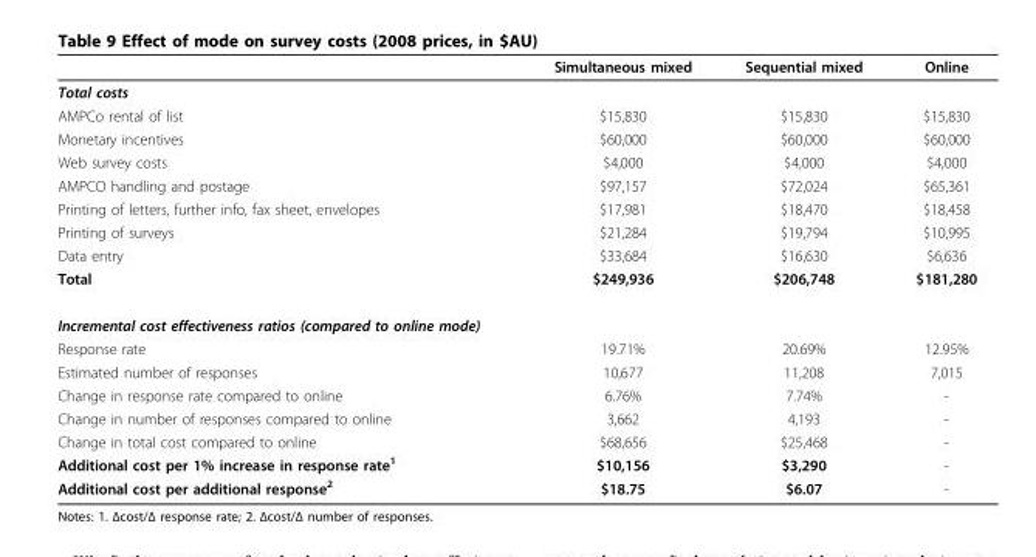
<table><thead><tr><td></td><td>Simultaneous mixed</td><td>Sequential mixed</td><td>Online</td></tr></thead><tbody><tr><td colspan="4">Total costs</td></tr><tr><td>AMPCo rental of list</td><td>$15,830</td><td>$15,830</td><td>$15,830</td></tr><tr><td>Monetary incentives</td><td>$60,000</td><td>$60,000</td><td>$60,000</td></tr><tr><td>Web survey costs</td><td>$4,000</td><td>$4,000</td><td>$4,000</td></tr><tr><td>AMPCO handling and postage</td><td>$97,157</td><td>$72,024</td><td>$65,361</td></tr><tr><td>Printing of letters, further info, fax sheet, envelopes</td><td>$17,981</td><td>$18,470</td><td>$18,458</td></tr><tr><td>Printing of surveys</td><td>$21,284</td><td>$19,794</td><td>$10,995</td></tr><tr><td>Data entry</td><td>$33,684</td><td>$16,630</td><td>$6,636</td></tr><tr><td>Total</td><td>$249,936</td><td>$206,748</td><td>$181,280</td></tr><tr><td colspan="4">Incremental cost effectiveness ratios (compared to online mode)</td></tr><tr><td>Response rate</td><td>19.71%</td><td>20.69%</td><td>12.95%</td></tr><tr><td>Estimated number of responses</td><td>10,677</td><td>11,208</td><td>7,015</td></tr><tr><td>Change in response rate compared to online</td><td>6.76%</td><td>7.74%</td><td>-</td></tr><tr><td>Change in number of responses compared to online</td><td>3,662</td><td>4,193</td><td>-</td></tr><tr><td>Change in total cost compared to online</td><td>$68,656</td><td>$25,468</td><td>-</td></tr><tr><td>Additional cost per 1% increase in response rate<sup>1</sup></td><td>$10,156</td><td>$3,290</td><td>-</td></tr><tr><td>Additional cost per additional response<sup>2</sup></td><td>$18.75</td><td>$6.07</td><td>-</td></tr></tbody></table>